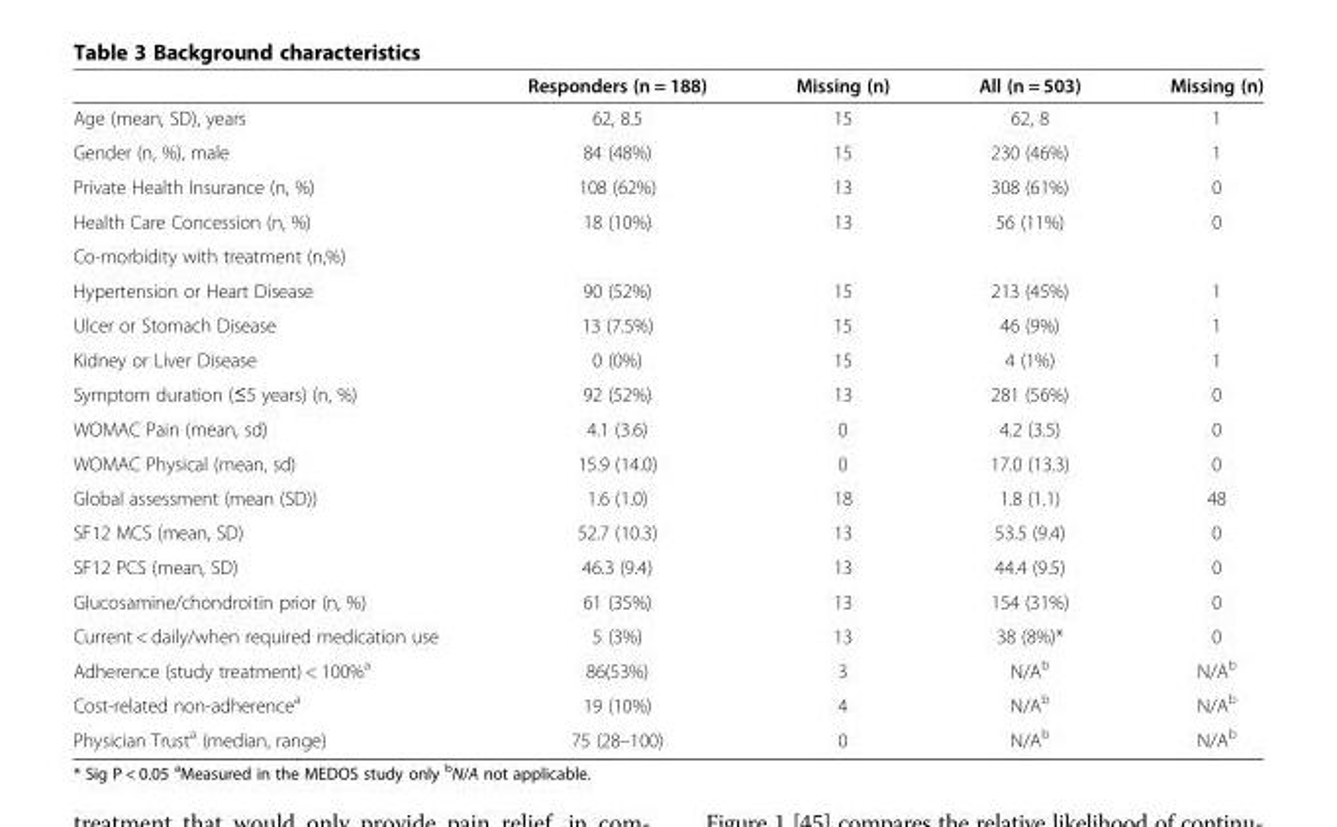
<table><thead><tr><td></td><td>Responders (n = 188)</td><td>Missing (n)</td><td>All (n = 503)</td><td>Missing (n)</td></tr></thead><tbody><tr><td>Age (mean, SD), years</td><td>62, 8.5</td><td>15</td><td>62, 8</td><td>1</td></tr><tr><td>Gender (n, %), male</td><td>84 (48%)</td><td>15</td><td>230 (46%)</td><td>1</td></tr><tr><td>Private Health Insurance (n, %)</td><td>108 (62%)</td><td>13</td><td>308 (61%)</td><td>0</td></tr><tr><td>Health Care Concession (n, %)</td><td>18 (10%)</td><td>13</td><td>56 (11%)</td><td>0</td></tr><tr><td colspan="5">Co-morbidity with treatment (n,%)</td></tr><tr><td>Hypertension or Heart Disease</td><td>90 (52%)</td><td>15</td><td>213 (45%)</td><td>1</td></tr><tr><td>Ulcer or Stomach Disease</td><td>13 (7.5%)</td><td>15</td><td>46 (9%)</td><td>1</td></tr><tr><td>Kidney or Liver Disease</td><td>0 (0%)</td><td>15</td><td>4 (1%)</td><td>1</td></tr><tr><td>Symptom duration (≤5 years) (n, %)</td><td>92 (52%)</td><td>13</td><td>281 (56%)</td><td>0</td></tr><tr><td>WOMAC Pain (mean, sd)</td><td>4.1 (3.6)</td><td>0</td><td>4.2 (3.5)</td><td>0</td></tr><tr><td>WOMAC Physical (mean, sd)</td><td>15.9 (14.0)</td><td>0</td><td>17.0 (13.3)</td><td>0</td></tr><tr><td>Global assessment (mean (SD))</td><td>1.6 (1.0)</td><td>18</td><td>1.8 (1.1)</td><td>48</td></tr><tr><td>SF12 MCS (mean, SD)</td><td>52.7 (10.3)</td><td>13</td><td>53.5 (9.4)</td><td>0</td></tr><tr><td>SF12 PCS (mean, SD)</td><td>46.3 (9.4)</td><td>13</td><td>44.4 (9.5)</td><td>0</td></tr><tr><td>Glucosamine/chondroitin prior (n, %)</td><td>61 (35%)</td><td>13</td><td>154 (31%)</td><td>0</td></tr><tr><td>Current &lt; daily/when required medication use</td><td>5 (3%)</td><td>13</td><td>38 (8%)*</td><td>0</td></tr><tr><td>Adherence (study treatment) &lt; 100%<sup>a</sup></td><td>86(53%)</td><td>3</td><td>N/A<sup>b</sup></td><td>N/A<sup>b</sup></td></tr><tr><td>Cost-related non-adherence<sup>a</sup></td><td>19 (10%)</td><td>4</td><td>N/A<sup>b</sup></td><td>N/A<sup>b</sup></td></tr><tr><td>Physician Trust<sup>a</sup> (median, range)</td><td>75 (28–100)</td><td>0</td><td>N/A<sup>b</sup></td><td>N/A<sup>b</sup></td></tr></tbody></table>